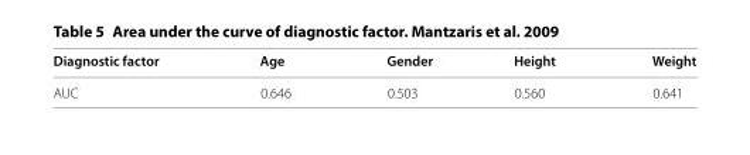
<table><thead><tr><td>Diagnostic factor</td><td>Age</td><td>Gender</td><td>Height</td><td>Weight</td></tr></thead><tbody><tr><td>AUC</td><td>0.646</td><td>0.503</td><td>0.560</td><td>0.641</td></tr></tbody></table>